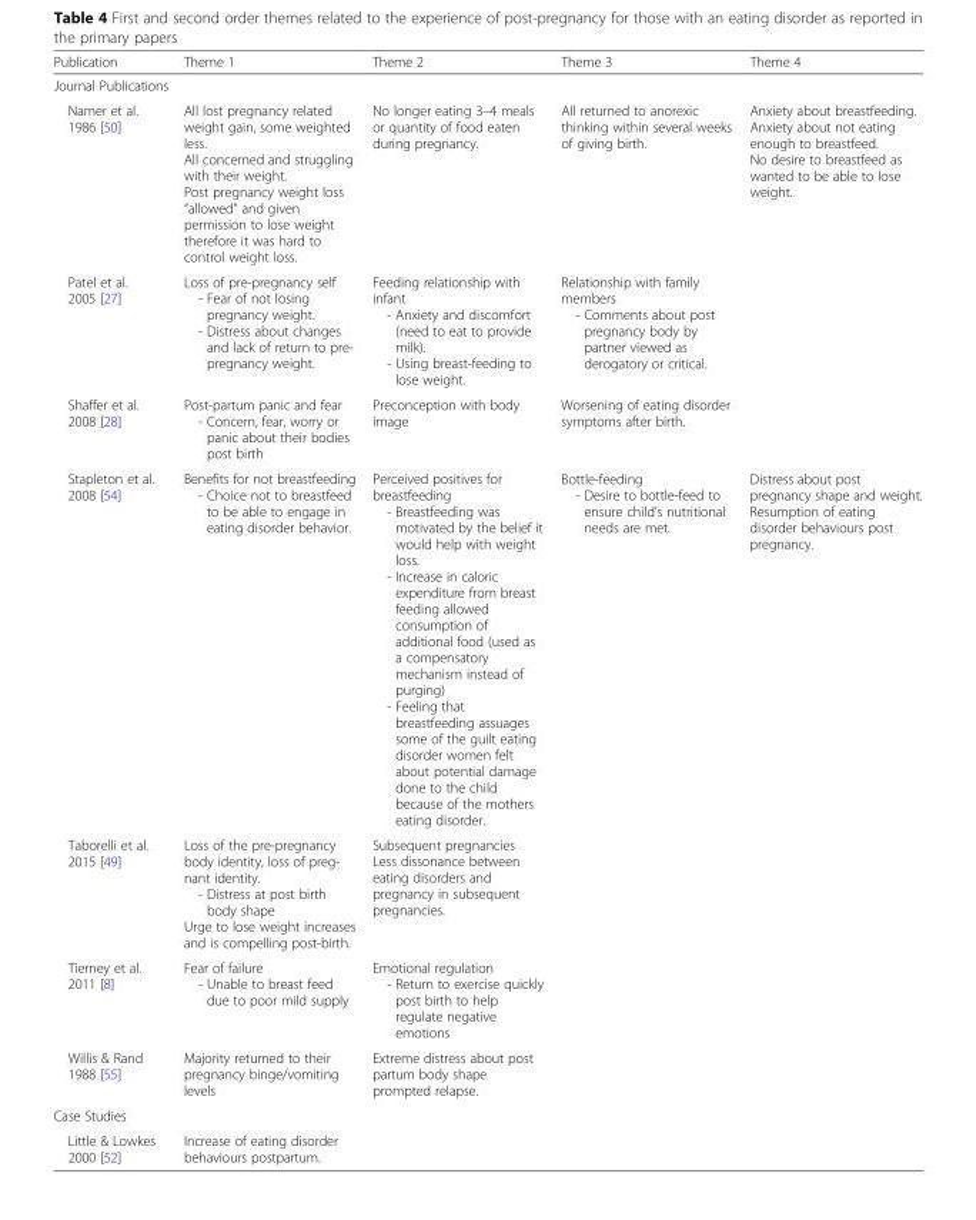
<table><thead><tr><td>Publication</td><td>Theme 1</td><td>Theme 2</td><td>Theme 3</td><td>Theme 4</td></tr></thead><tbody><tr><td colspan="5">Journal Publications</td></tr><tr><td>Namer et al. 1986 [50]</td><td>All lost pregnancy related weight gain, some weighted less. All concerned and struggling with their weight. Post pregnancy weight loss “allowed” and given permission to lose weight therefore it was hard to control weight loss.</td><td>No longer eating 3–4 meals or quantity of food eaten during pregnancy.</td><td>All returned to anorexic thinking within several weeks of giving birth.</td><td>Anxiety about breastfeeding. Anxiety about not eating enough to breastfeed. No desire to breastfeed as wanted to be able to lose weight.</td></tr><tr><td>Patel et al. 2005 [27]</td><td>Loss of pre-pregnancy self - Fear of not losing pregnancy weight. - Distress about changes and lack of return to pre- pregnancy weight.</td><td>Feeding relationship with infant - Anxiety and discomfort (need to eat to provide milk). - Using breast-feeding to lose weight.</td><td>Relationship with family members - Comments about post pregnancy body by partner viewed as derogatory or critical.</td><td></td></tr><tr><td>Shaffer et al. 2008 [28]</td><td>Post-partum panic and fear - Concern, fear, worry or panic about their bodies post birth</td><td>Preconception with body image</td><td>Worsening of eating disorder symptoms after birth.</td><td></td></tr><tr><td>Stapleton et al. 2008 [54]</td><td>Benefits for not breastfeeding - Choice not to breastfeed to be able to engage in eating disorder behavior.</td><td>Perceived positives for breastfeeding - Breastfeeding was motivated by the belief it would help with weight loss. - Increase in caloric expenditure from breast feeding allowed consumption of additional food (used as a compensatory mechanism instead of purging) - Feeling that breastfeeding assuages some of the guilt eating disorder women felt about potential damage done to the child because of the mothers eating disorder.</td><td>Bottle-feeding - Desire to bottle-feed to ensure child’s nutritional needs are met.</td><td>Distress about post pregnancy shape and weight. Resumption of eating disorder behaviours post pregnancy.</td></tr><tr><td>Taborelli et al. 2015 [49]</td><td>Loss of the pre-pregnancy body identity, loss of preg- nant identity. - Distress at post birth body shape Urge to lose weight increases and is compelling post-birth.</td><td>Subsequent pregnancies Less dissonance between eating disorders and pregnancy in subsequent pregnancies.</td><td></td><td></td></tr><tr><td>Tierney et al. 2011 [8]</td><td>Fear of failure - Unable to breast feed due to poor mild supply</td><td>Emotional regulation - Return to exercise quickly post birth to help regulate negative emotions</td><td></td><td></td></tr><tr><td>Willis &amp; Rand 1988 [55]</td><td>Majority returned to their pregnancy binge/vomiting levels</td><td>Extreme distress about post partum body shape prompted relapse.</td><td></td><td></td></tr><tr><td colspan="5">Case Studies</td></tr><tr><td>Little &amp; Lowkes 2000 [52]</td><td>Increase of eating disorder behaviours postpartum.</td><td></td><td></td><td></td></tr></tbody></table>